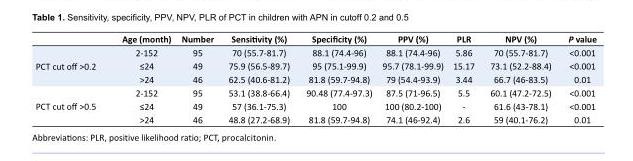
<table><thead><tr><td></td><td>Age (month)</td><td>Number</td><td>Sensitivity (%)</td><td>Specificity (%)</td><td>PPV (%)</td><td>PLR</td><td>NPV (%)</td><td>P value</td></tr></thead><tbody><tr><td rowspan="3">PCT cut off &gt;0.2</td><td>2-152</td><td>95</td><td>70 (55.7-81.7)</td><td>88.1 (74.4-96)</td><td>88.1 (74.4-96)</td><td>5.86</td><td>70 (55.7-81.7)</td><td>&lt;0.001</td></tr><tr><td>≤24</td><td>49</td><td>75.9 (56.5-89.7)</td><td>95 (75.1-99.9)</td><td>95.7 (78.1-99.9)</td><td>15.17</td><td>73.1 (52.2-88.4)</td><td>&lt;0.001</td></tr><tr><td>&gt;24</td><td>46</td><td>62.5 (40.6-81.2)</td><td>81.8 (59.7-94.8)</td><td>79 (54.4-93.9)</td><td>3.44</td><td>66.7 (46-83.5)</td><td>0.01</td></tr><tr><td rowspan="3">PCT cut off &gt;0.5</td><td>2-152</td><td>95</td><td>53.1 (38.8-66.4)</td><td>90.48 (77.4-97.3)</td><td>87.5 (71-96.5)</td><td>5.5</td><td>60.1 (47.2-72.5)</td><td>&lt;0.001</td></tr><tr><td>≤24</td><td>49</td><td>57 (36.1-75.3)</td><td>100</td><td>100 (80.2-100)</td><td>-</td><td>61.6 (43-78.1)</td><td>&lt;0.001</td></tr><tr><td>&gt;24</td><td>46</td><td>48.8 (27.2-68.9)</td><td>81.8 (59.7-94.8)</td><td>74.1 (46-92.4)</td><td>2.6</td><td>59 (40.1-76.2)</td><td>0.01</td></tr></tbody></table>